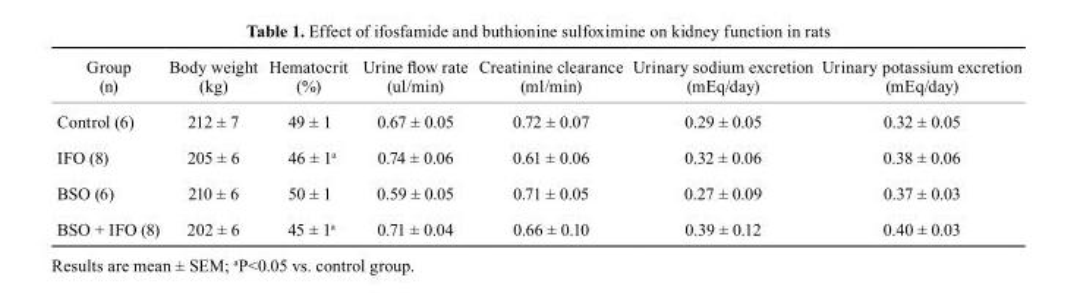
<table><thead><tr><td>Group (n)</td><td>Body weight (kg)</td><td>Hematocrit (%)</td><td>Urine flow rate (ul/min)</td><td>Creatinine clearance (ml/min)</td><td>Urinary sodium excretion (mEq/day)</td><td>Urinary potassium excretion (mEq/day)</td></tr></thead><tbody><tr><td>Control (6)</td><td>212 ± 7</td><td>49 ± 1</td><td>0.67 ± 0.05</td><td>0.72 ± 0.07</td><td>0.29 ± 0.05</td><td>0.32 ± 0.05</td></tr><tr><td>IFO (8)</td><td>205 ± 6</td><td>46 ± 1<sup>a</sup></td><td>0.74 ± 0.06</td><td>0.61 ± 0.06</td><td>0.32 ± 0.06</td><td>0.38 ± 0.06</td></tr><tr><td>BSO (6)</td><td>210 ± 6</td><td>50 ± 1</td><td>0.59 ± 0.05</td><td>0.71 ± 0.05</td><td>0.27 ± 0.09</td><td>0.37 ± 0.03</td></tr><tr><td>BSO + IFO (8)</td><td>202 ± 6</td><td>45 ± 1<sup>a</sup></td><td>0.71 ± 0.04</td><td>0.66 ± 0.10</td><td>0.39 ± 0.12</td><td>0.40 ± 0.03</td></tr></tbody></table>